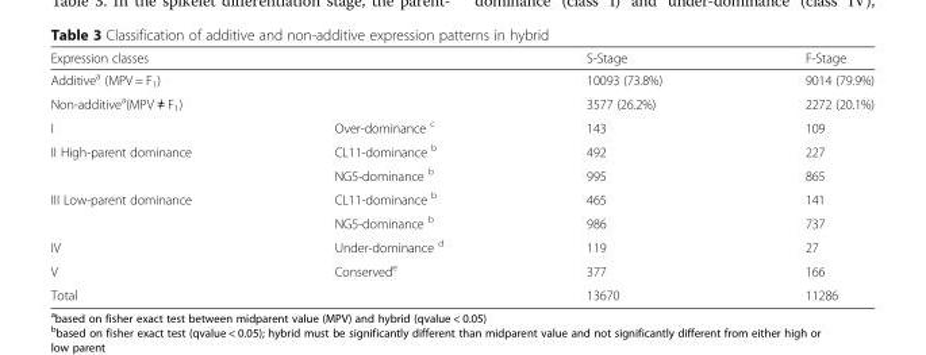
<table><thead><tr><td rowspan="3" colspan="2">Expression classes Additive<sup>a</sup> (MPV = F<sub>1</sub>) Non-additive<sup>a</sup>(MPV ≠ F<sub>1</sub>)</td><td rowspan="4">S-Stage 10093 (73.8%) 3577 (26.2%) 143</td><td rowspan="4">F-Stage 9014 (79.9%) 2272 (20.1%) 109</td></tr><tr></tr><tr></tr><tr><td>I</td><td>Over-dominance <sup>c</sup></td></tr></thead><tbody><tr><td rowspan="2">II High-parent dominance</td><td>CL11-dominance <sup>b</sup></td><td>492</td><td>227</td></tr><tr><td>NG5-dominance <sup>b</sup></td><td>995</td><td>865</td></tr><tr><td rowspan="2">III Low-parent dominance</td><td>CL11-dominance <sup>b</sup></td><td>465</td><td>141</td></tr><tr><td>NG5-dominance <sup>b</sup></td><td>986</td><td>737</td></tr><tr><td>IV</td><td>Under-dominance <sup>d</sup></td><td>119</td><td>27</td></tr><tr><td>V</td><td>Conserved<sup>e</sup></td><td>377</td><td>166</td></tr><tr><td>Total</td><td></td><td>13670</td><td>11286</td></tr></tbody></table>